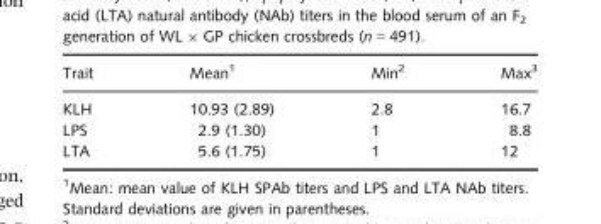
<table><thead><tr><td>Trait</td><td>Mean1</td><td>Min2</td><td>Max3</td></tr></thead><tbody><tr><td>KLH</td><td>10.93 (2.89)</td><td>2.8</td><td>16.7</td></tr><tr><td>LPS</td><td>2.9 (1.30)</td><td>1</td><td>8.8</td></tr><tr><td>LTA</td><td>5.6 (1.75)</td><td>1</td><td>12</td></tr></tbody></table>